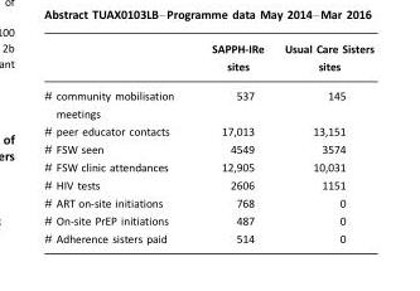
<table><thead><tr><td></td><td>SAPPH-IRe sites</td><td>Usual Care Sisters sites</td></tr></thead><tbody><tr><td># community mobilisation meetings</td><td>537</td><td>145</td></tr><tr><td># peer educator contacts</td><td>17,013</td><td>13,151</td></tr><tr><td># FSW seen</td><td>4549</td><td>3574</td></tr><tr><td># FSW clinic attendances</td><td>12,905</td><td>10,031</td></tr><tr><td># HIV tests</td><td>2606</td><td>1151</td></tr><tr><td># ART on-site initiations</td><td>768</td><td>0</td></tr><tr><td># On-site PrEP initiations</td><td>487</td><td>0</td></tr><tr><td># Adherence sisters paid</td><td>514</td><td>0</td></tr></tbody></table>